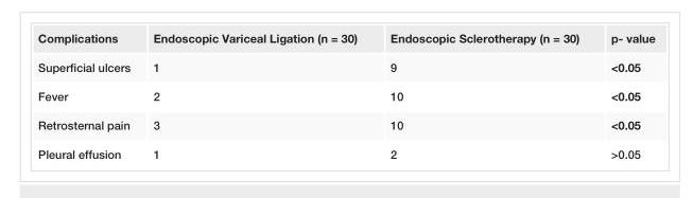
<table><tbody><tr><td>Complications</td><td>Endoscopic Variceal Ligation (n = 30)</td><td>Endoscopic Sclerotherapy (n = 30)</td><td>p- value</td></tr><tr><td>Superficial ulcers</td><td>1</td><td>9</td><td>&lt;0.05</td></tr><tr><td>Fever</td><td>2</td><td>10</td><td>&lt;0.05</td></tr><tr><td>Retrosternal pain</td><td>3</td><td>10</td><td>&lt;0.05</td></tr><tr><td>Pleural effusion</td><td>1</td><td>2</td><td>&gt;0.05</td></tr></tbody></table>